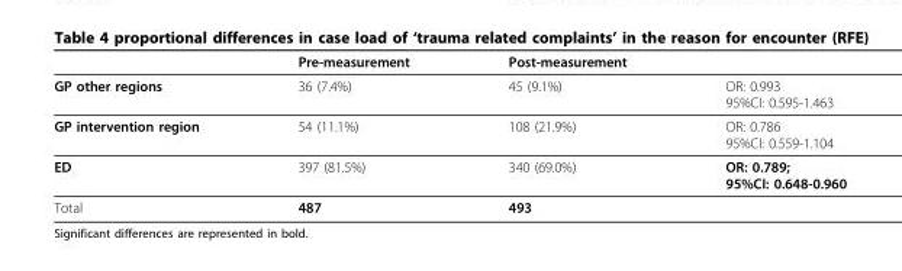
<table><thead><tr><td></td><td>Pre-measurement</td><td>Post-measurement</td><td></td></tr></thead><tbody><tr><td>GP other regions</td><td>36 (7.4%)</td><td>45 (9.1%)</td><td>OR: 0.993 95%CI: 0.595-1.463</td></tr><tr><td>GP intervention region</td><td>54 (11.1%)</td><td>108 (21.9%)</td><td>OR: 0.786 95%CI: 0.559-1.104</td></tr><tr><td>ED</td><td>397 (81.5%)</td><td>340 (69.0%)</td><td>OR: 0.789; 95%CI: 0.648-0.960</td></tr><tr><td>Total</td><td>487</td><td>493</td><td></td></tr></tbody></table>